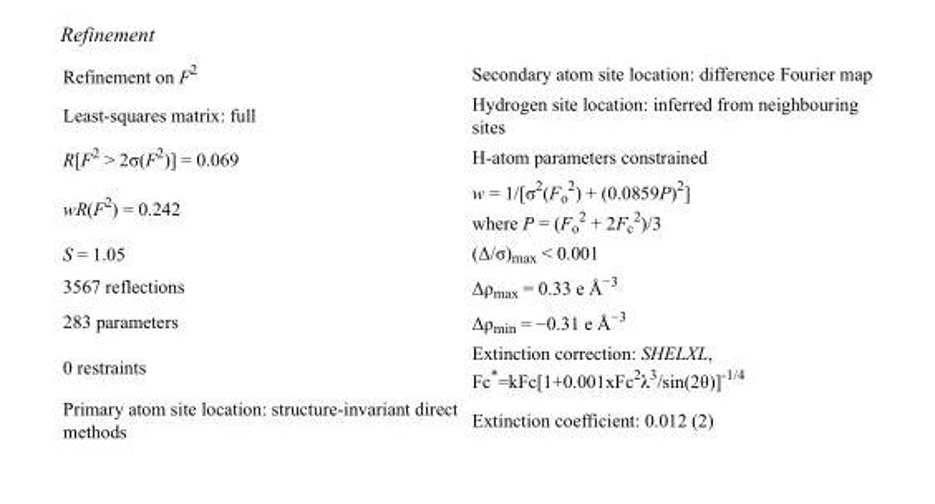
<table><tbody><tr><td>Refinement on F<sup>2</sup></td><td>Secondary atom site location: difference Fourier map</td></tr><tr><td>Least-squares matrix: full</td><td>Hydrogen site location: inferred from neighbouring sites</td></tr><tr><td>R[F<sup>2</sup> &gt; 2σ(F<sup>2</sup>)] = 0.069</td><td>H-atom parameters constrained</td></tr><tr><td>wR(F<sup>2</sup>) = 0.242</td><td>w = 1/[σ<sup>2</sup>(F<sub>o</sub> <sup>2</sup>) + (0.0859P)<sup>2</sup>] where P = (F<sub>o</sub> <sup>2</sup> + 2F<sub>c</sub> <sup>2</sup>)/3</td></tr><tr><td>S = 1.05</td><td>(Δ/σ)<sub>max</sub> &lt; 0.001</td></tr><tr><td>3567 reflections</td><td>Δρ<sub>max</sub> = 0.33 e Å<sup>−3</sup></td></tr><tr><td>283 parameters</td><td>Δρ<sub>min</sub> = −0.31 e Å<sup>−3</sup></td></tr><tr><td>0 restraints</td><td>Extinction correction: SHELXL, Fc*=kFc[1+0.001xFc<sup>2</sup>λ<sup>3</sup>/sin(2θ)]<sup>-1/4</sup></td></tr><tr><td>Primary atom site location: structure-invariant direct methods</td><td>Extinction coefficient: 0.012 (2)</td></tr></tbody></table>